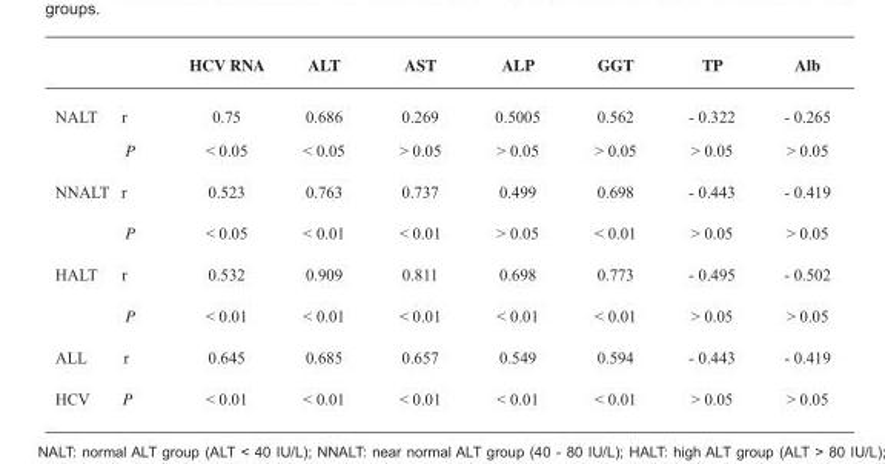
<table><thead><tr><td></td><td></td><td>HCV RNA</td><td>ALT</td><td>AST</td><td>ALP</td><td>GGT</td><td>TP</td><td>Alb</td></tr></thead><tbody><tr><td rowspan="2">NALT</td><td>r</td><td>0.75</td><td>0.686</td><td>0.269</td><td>0.5005</td><td>0.562</td><td>- 0.322</td><td>- 0.265</td></tr><tr><td>P</td><td>&lt; 0.05</td><td>&lt; 0.05</td><td>&gt; 0.05</td><td>&gt; 0.05</td><td>&gt; 0.05</td><td>&gt; 0.05</td><td>&gt; 0.05</td></tr><tr><td rowspan="2">NNALT</td><td>r</td><td>0.523</td><td>0.763</td><td>0.737</td><td>0.499</td><td>0.698</td><td>- 0.443</td><td>- 0.419</td></tr><tr><td>P</td><td>&lt; 0.05</td><td>&lt; 0.01</td><td>&lt; 0.01</td><td>&gt; 0.05</td><td>&lt; 0.01</td><td>&gt; 0.05</td><td>&gt; 0.05</td></tr><tr><td rowspan="2">HALT</td><td>r</td><td>0.532</td><td>0.909</td><td>0.811</td><td>0.698</td><td>0.773</td><td>- 0.495</td><td>- 0.502</td></tr><tr><td>P</td><td>&lt; 0.01</td><td>&lt; 0.01</td><td>&lt; 0.01</td><td>&lt; 0.01</td><td>&lt; 0.01</td><td>&gt; 0.05</td><td>&gt; 0.05</td></tr><tr><td>ALL</td><td>r</td><td>0.645</td><td>0.685</td><td>0.657</td><td>0.549</td><td>0.594</td><td>- 0.443</td><td>- 0.419</td></tr><tr><td>HCV</td><td>P</td><td>&lt; 0.01</td><td>&lt; 0.01</td><td>&lt; 0.01</td><td>&lt; 0.01</td><td>&lt; 0.01</td><td>&gt; 0.05</td><td>&gt; 0.05</td></tr></tbody></table>